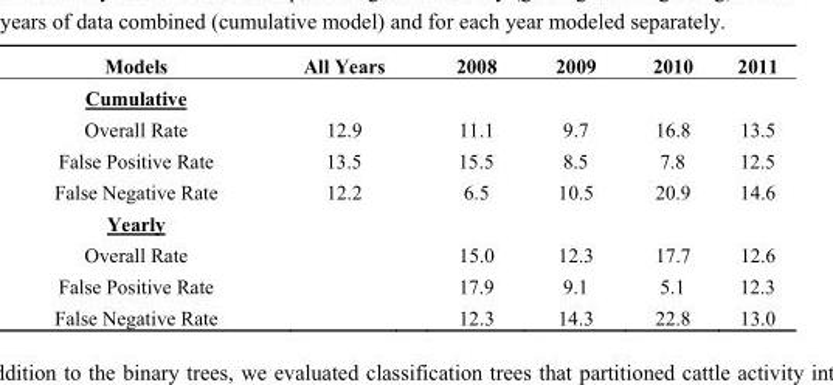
<table><thead><tr><td>Models</td><td>All Years</td><td>2008</td><td>2009</td><td>2010</td><td>2011</td></tr></thead><tbody><tr><td colspan="6">Cumulative</td></tr><tr><td>Overall Rate</td><td>12.9</td><td>11.1</td><td>9.7</td><td>16.8</td><td>13.5</td></tr><tr><td>False Positive Rate</td><td>13.5</td><td>15.5</td><td>8.5</td><td>7.8</td><td>12.5</td></tr><tr><td>False Negative Rate</td><td>12.2</td><td>6.5</td><td>10.5</td><td>20.9</td><td>14.6</td></tr><tr><td colspan="6">Yearly</td></tr><tr><td>Overall Rate</td><td></td><td>15.0</td><td>12.3</td><td>17.7</td><td>12.6</td></tr><tr><td>False Positive Rate</td><td></td><td>17.9</td><td>9.1</td><td>5.1</td><td>12.3</td></tr><tr><td>False Negative Rate</td><td></td><td>12.3</td><td>14.3</td><td>22.8</td><td>13.0</td></tr></tbody></table>